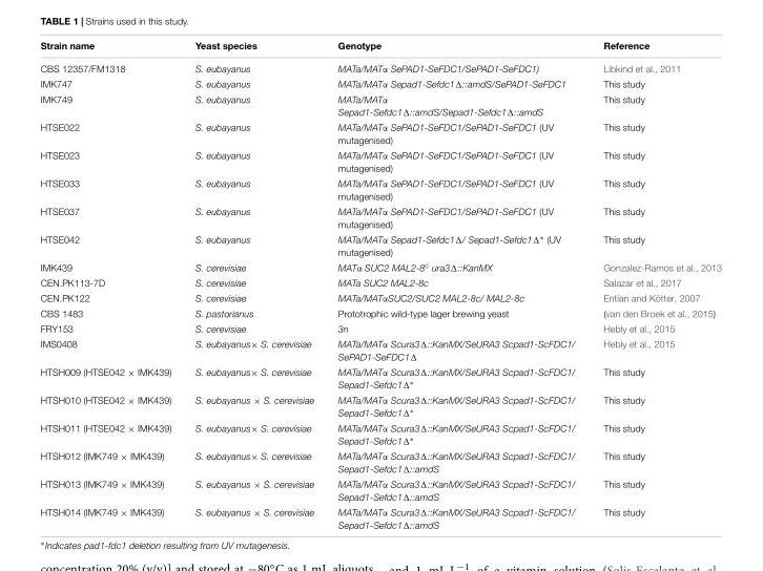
<table><thead><tr><td>Strain name</td><td>Yeast species</td><td>Genotype</td><td>Reference</td></tr></thead><tbody><tr><td>CBS 12357/FM1318</td><td>S. eubayanus</td><td>MATa/MATα SePAD1-SeFDC1/SePAD1-SeFDC1)</td><td>Libkind et al., 2011</td></tr><tr><td>IMK747</td><td>S. eubayanus</td><td>MATa/MATα Sepad1-Sefdc1Δ::amdS/SePAD1-SeFDC1</td><td>This study</td></tr><tr><td>IMK749</td><td>S. eubayanus</td><td>MATa/MATα Sepad1-Sefdc1Δ::amdS/Sepad1-Sefdc1Δ::amdS</td><td>This study</td></tr><tr><td>HTSE022</td><td>S. eubayanus</td><td>MATa/MATα SePAD1-SeFDC1/SePAD1-SeFDC1 (UV mutagenised)</td><td>This study</td></tr><tr><td>HTSE023</td><td>S. eubayanus</td><td>MATa/MATα SePAD1-SeFDC1/SePAD1-SeFDC1 (UV mutagenised)</td><td>This study</td></tr><tr><td>HTSE033</td><td>S. eubayanus</td><td>MATa/MATα SePAD1-SeFDC1/SePAD1-SeFDC1 (UV mutagenised)</td><td>This study</td></tr><tr><td>HTSE037</td><td>S. eubayanus</td><td>MATa/MATα SePAD1-SeFDC1/SePAD1-SeFDC1 (UV mutagenised)</td><td>This study</td></tr><tr><td>HTSE042</td><td>S. eubayanus</td><td>MATa/MATα Sepad1-Sefdc1Δ/ Sepad1-Sefdc1Δ∗ (UV mutagenised)</td><td>This study</td></tr><tr><td>IMK439</td><td>S. cerevisiae</td><td>MATα SUC2 MAL2-8<sup>c</sup> ura3Δ::KanMX</td><td>Gonzalez-Ramos et al., 2013</td></tr><tr><td>CEN.PK113-7D</td><td>S. cerevisiae</td><td>MATa SUC2 MAL2-8c</td><td>Salazar et al., 2017</td></tr><tr><td>CEN.PK122</td><td>S. cerevisiae</td><td>MATa/MATαSUC2/SUC2 MAL2-8c/ MAL2-8c</td><td>Entian and Kötter, 2007</td></tr><tr><td>CBS 1483</td><td>S. pastorianus</td><td>Prototrophic wild-type lager brewing yeast</td><td>(van den Broek et al., 2015)</td></tr><tr><td>FRY153</td><td>S. cerevisiae</td><td>3n</td><td>Hebly et al., 2015</td></tr><tr><td>IMS0408</td><td>S. eubayanus× S. cerevisiae</td><td>MATa/MATα Scura3Δ::KanMX/SeURA3 Scpad1-ScFDC1/ SePAD1-SeFDC1Δ</td><td>Hebly et al., 2015</td></tr><tr><td>HTSH009 (HTSE042 × IMK439)</td><td>S. eubayanus× S. cerevisiae</td><td>MATa/MATα Scura3Δ::KanMX/SeURA3 Scpad1-ScFDC1/ Sepad1-Sefdc1Δ∗</td><td>This study</td></tr><tr><td>HTSH010 (HTSE042 × IMK439)</td><td>S. eubayanus × S. cerevisiae</td><td>MATa/MATα Scura3Δ::KanMX/SeURA3 Scpad1-ScFDC1/ Sepad1-Sefdc1Δ∗</td><td>This study</td></tr><tr><td>HTSH011 (HTSE042 × IMK439)</td><td>S. eubayanus× S. cerevisiae</td><td>MATa/MATα Scura3Δ::KanMX/SeURA3 Scpad1-ScFDC1/ Sepad1-Sefdc1Δ∗</td><td>This study</td></tr><tr><td>HTSH012 (IMK749 × IMK439)</td><td>S. eubayanus× S. cerevisiae</td><td>MATa/MATα Scura3Δ::KanMX/SeURA3 Scpad1-ScFDC1/ Sepad1-Sefdc1Δ::amdS</td><td>This study</td></tr><tr><td>HTSH013 (IMK749 × IMK439)</td><td>S. eubayanus × S. cerevisiae</td><td>MATa/MATα Scura3Δ::KanMX/SeURA3 Scpad1-ScFDC1/ Sepad1-Sefdc1Δ::amdS</td><td>This study</td></tr><tr><td>HTSH014 (IMK749 × IMK439)</td><td>S. eubayanus × S. cerevisiae</td><td>MATa/MATα Scura3Δ::KanMX/SeURA3 Scpad1-ScFDC1/ Sepad1-Sefdc1Δ::amdS</td><td>This study</td></tr></tbody></table>